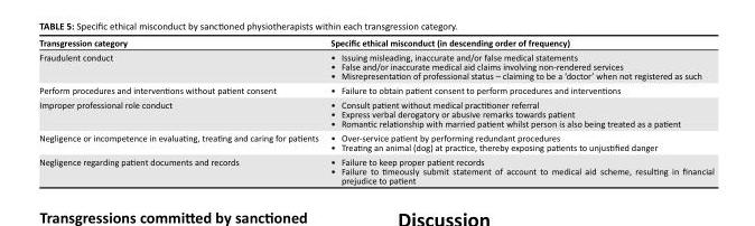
<table><thead><tr><td>Transgression category</td><td>Specific ethical misconduct (in descending order of frequency)</td></tr></thead><tbody><tr><td>Fraudulent conduct</td><td>• Issuing misleading, inaccurate and/or false medical statements • False and/or inaccurate medical aid claims involving non-rendered services • Misrepresentation of professional status – claiming to be a ‘doctor’ when not registered as such</td></tr><tr><td>Perform procedures and interventions without patient consent</td><td>• Failure to obtain patient consent to perform procedures and interventions</td></tr><tr><td>Improper professional role conduct</td><td>• Consult patient without medical practitioner referral • Express verbal derogatory or abusive remarks towards patient • Romantic relationship with married patient whilst person is also being treated as a patient</td></tr><tr><td>Negligence or incompetence in evaluating, treating and caring for patients</td><td>• Over-service patient by performing redundant procedures • Treating an animal (dog) at practice, thereby exposing patients to unjustified danger</td></tr><tr><td>Negligence regarding patient documents and records</td><td>• Failure to keep proper patient records • Failure to timeously submit statement of account to medical aid scheme, resulting in financial prejudice to patient</td></tr></tbody></table>